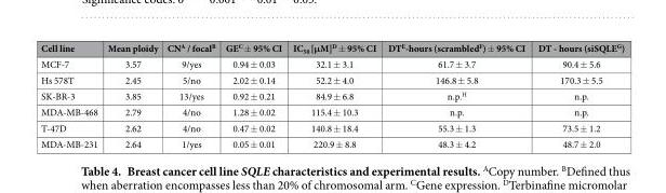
<table><thead><tr><td>Cell line</td><td>Mean ploidy</td><td>CN<sup>A</sup> / focal<sup>B</sup></td><td>GE<sup>C</sup> ± 95% CI</td><td>IC<sub>50</sub> [μM]<sup>D</sup> ± 95% CI</td><td>DT<sup>E</sup>-hours (scrambled<sup>F</sup>) ± 95% CI</td><td>DT - hours (siSQLE<sup>G</sup>)</td></tr></thead><tbody><tr><td>MCF-7</td><td>3.57</td><td>9/yes</td><td>0.94 ± 0.03</td><td>32.1 ± 3.1</td><td>61.7 ± 3.7</td><td>90.4 ± 5.6</td></tr><tr><td>Hs 578T</td><td>2.45</td><td>5/no</td><td>2.02 ± 0.14</td><td>52.2 ± 4.0</td><td>146.8 ± 5.8</td><td>170.3 ± 5.5</td></tr><tr><td>SK-BR-3</td><td>3.85</td><td>13/yes</td><td>0.92 ± 0.21</td><td>84.9 ± 6.8</td><td>n.p.<sup>H</sup></td><td>n.p.</td></tr><tr><td>MDA-MB-468</td><td>2.79</td><td>4/no</td><td>1.28 ± 0.02</td><td>115.4 ± 10.3</td><td>n.p.</td><td>n.p.</td></tr><tr><td>T-47D</td><td>2.62</td><td>4/no</td><td>0.47 ± 0.02</td><td>140.8 ± 18.4</td><td>55.3 ± 1.3</td><td>73.5 ± 1.2</td></tr><tr><td>MDA-MB-231</td><td>2.64</td><td>1/yes</td><td>0.05 ± 0.01</td><td>220.9 ± 8.8</td><td>48.3 ± 4.2</td><td>48.7 ± 2.0</td></tr></tbody></table>